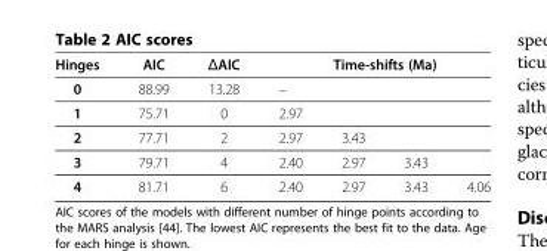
<table><thead><tr><td rowspan="2">Hinges 0</td><td rowspan="2">AIC 88.99</td><td rowspan="2">ΔAIC 13.28</td><td colspan="4">Time-shifts (Ma)</td></tr><tr><td>–</td><td></td><td></td><td></td></tr></thead><tbody><tr><td>1</td><td>75.71</td><td>0</td><td>2.97</td><td></td><td></td><td></td></tr><tr><td>2</td><td>77.71</td><td>2</td><td>2.97</td><td>3.43</td><td></td><td></td></tr><tr><td>3</td><td>79.71</td><td>4</td><td>2.40</td><td>2.97</td><td>3.43</td><td></td></tr><tr><td>4</td><td>81.71</td><td>6</td><td>2.40</td><td>2.97</td><td>3.43</td><td>4.06</td></tr></tbody></table>